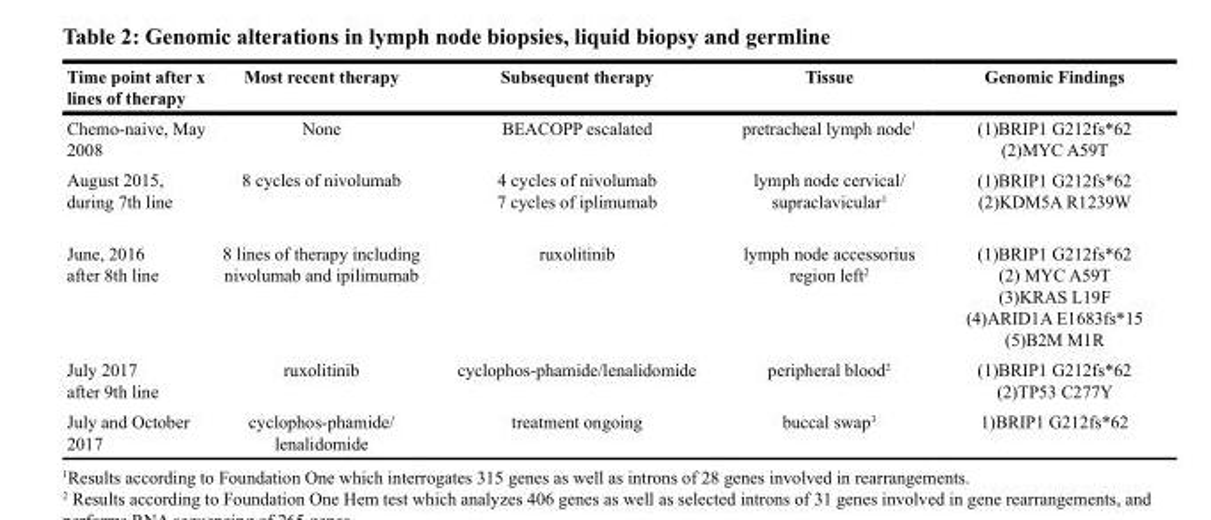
<table><thead><tr><td>Time point after x lines of therapy</td><td>Most recent therapy</td><td>Subsequent therapy</td><td>Tissue</td><td>Genomic Findings</td></tr></thead><tbody><tr><td>Chemo-naive, May 2008</td><td>None</td><td>BEACOPP escalated</td><td>pretracheal lymph node<sup>1</sup></td><td>(1)BRIP1 G212fs*62 (2)MYC A59T</td></tr><tr><td>August 2015, during 7th line</td><td>8 cycles of nivolumab</td><td>4 cycles of nivolumab 7 cycles of iplimumab</td><td>lymph node cervical/ supraclavicular<sup>1</sup></td><td>(1)BRIP1 G212fs*62 (2)KDM5A R1239W</td></tr><tr><td>June, 2016 after 8th line</td><td>8 lines of therapy including nivolumab and ipilimumab</td><td>ruxolitinib</td><td>lymph node accessorius region left<sup>2</sup></td><td>(1)BRIP1 G212fs*62 (2) MYC A59T (3)KRAS L19F (4)ARID1A E1683fs*15 (5)B2M M1R</td></tr><tr><td>July 2017 after 9th line</td><td>ruxolitinib</td><td>cyclophos-phamide/lenalidomide</td><td>peripheral blood<sup>2</sup></td><td>(1)BRIP1 G212fs*62 (2)TP53 C277Y</td></tr><tr><td>July and October 2017</td><td>cyclophos-phamide/ lenalidomide</td><td>treatment ongoing</td><td>buccal swap<sup>3</sup></td><td>1)BRIP1 G212fs*62</td></tr></tbody></table>